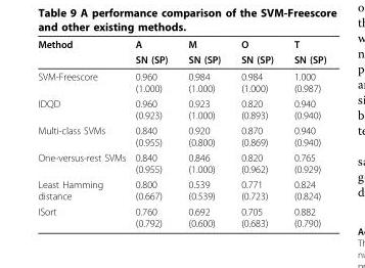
<table><thead><tr><td rowspan="2">Method</td><td rowspan="2">A SN (SP)</td><td rowspan="2">M SN (SP)</td><td rowspan="2">O SN (SP)</td><td rowspan="2">T SN (SP)</td></tr><tr></tr></thead><tbody><tr><td>SVM-Freescore</td><td>0.960 (1.000)</td><td>0.984 (1.000)</td><td>0.984 (1.000)</td><td>1.000 (0.987)</td></tr><tr><td>IDQD</td><td>0.960 (0.923)</td><td>0.923 (1.000)</td><td>0.820 (0.893)</td><td>0.940 (0.940)</td></tr><tr><td>Multi-class SVMs</td><td>0.840 (0.955)</td><td>0.920 (0.800)</td><td>0.870 (0.869)</td><td>0.940 (0.940)</td></tr><tr><td>One-versus-rest SVMs</td><td>0.840 (0.955)</td><td>0.846 (1.000)</td><td>0.820 (0.962)</td><td>0.765 (0.929)</td></tr><tr><td>Least Hamming distance</td><td>0.800 (0.667)</td><td>0.539 (0.539)</td><td>0.771 (0.723)</td><td>0.824 (0.824)</td></tr><tr><td>ISort</td><td>0.760 (0.792)</td><td>0.692 (0.600)</td><td>0.705 (0.683)</td><td>0.882 (0.790)</td></tr></tbody></table>